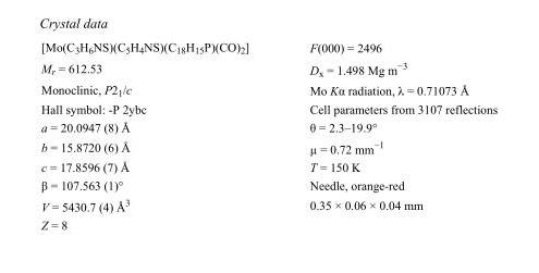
<table><tbody><tr><td>[Mo(C<sub>3</sub>H<sub>6</sub>NS)(C<sub>5</sub>H<sub>4</sub>NS)(C<sub>18</sub>H<sub>15</sub>P)(CO)<sub>2</sub>]</td><td>F(000) = 2496</td></tr><tr><td>M<sub>r</sub> = 612.53</td><td>D<sub>x</sub> = 1.498 Mg m<sup>−3</sup></td></tr><tr><td>Monoclinic, P2<sub>1</sub>/c</td><td>Mo Kα radiation, λ = 0.71073 Å</td></tr><tr><td>Hall symbol: -P 2ybc</td><td>Cell parameters from 3107 reflections</td></tr><tr><td>a = 20.0947 (8) Å</td><td>θ = 2.3–19.9°</td></tr><tr><td>b = 15.8720 (6) Å</td><td>µ = 0.72 mm<sup>−1</sup></td></tr><tr><td>c = 17.8596 (7) Å</td><td>T = 150 K</td></tr><tr><td>β = 107.563 (1)°</td><td>Needle, orange-red</td></tr><tr><td>V = 5430.7 (4) Å<sup>3</sup></td><td>0.35 × 0.06 × 0.04 mm</td></tr><tr><td>Z = 8</td><td></td></tr></tbody></table>